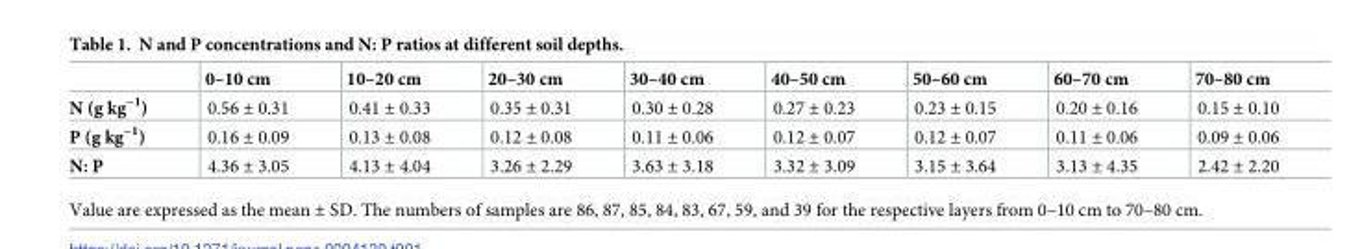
<table><thead><tr><td></td><td>0–10 cm</td><td>10–20 cm</td><td>20–30 cm</td><td>30–40 cm</td><td>40–50 cm</td><td>50–60 cm</td><td>60–70 cm</td><td>70–80 cm</td></tr></thead><tbody><tr><td>N (g kg<sup>−1</sup>)</td><td>0.56 ± 0.31</td><td>0.41 ± 0.33</td><td>0.35 ± 0.31</td><td>0.30 ± 0.28</td><td>0.27 ± 0.23</td><td>0.23 ± 0.15</td><td>0.20 ± 0.16</td><td>0.15 ± 0.10</td></tr><tr><td>P (g kg<sup>−1</sup>)</td><td>0.16 ± 0.09</td><td>0.13 ± 0.08</td><td>0.12 ± 0.08</td><td>0.11 ± 0.06</td><td>0.12 ± 0.07</td><td>0.12 ± 0.07</td><td>0.11 ± 0.06</td><td>0.09 ± 0.06</td></tr><tr><td>N: P</td><td>4.36 ± 3.05</td><td>4.13 ± 4.04</td><td>3.26 ± 2.29</td><td>3.63 ± 3.18</td><td>3.32 ± 3.09</td><td>3.15 ± 3.64</td><td>3.13 ± 4.35</td><td>2.42 ± 2.20</td></tr></tbody></table>